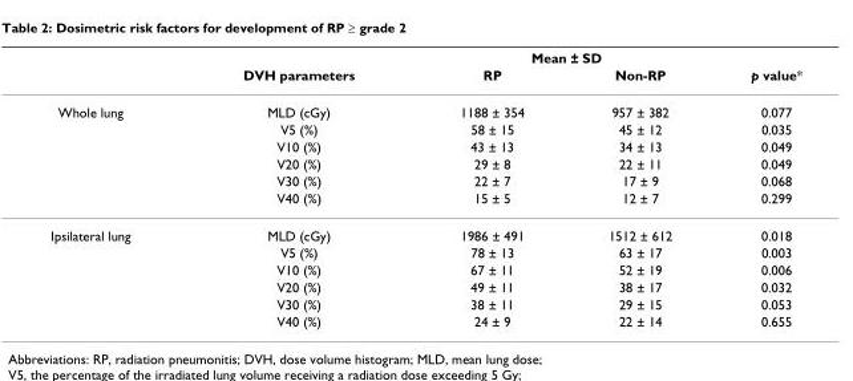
<table><thead><tr><td rowspan="2"></td><td rowspan="2">DVH parameters</td><td colspan="2">Mean ± SD</td><td rowspan="2">p value*</td></tr><tr><td>RP</td><td>Non-RP</td></tr></thead><tbody><tr><td rowspan="6">Whole lung</td><td>MLD (cGy)</td><td>1188 ± 354</td><td>957 ± 382</td><td>0.077</td></tr><tr><td>V5 (%)</td><td>58 ± 15</td><td>45 ± 12</td><td>0.035</td></tr><tr><td>V10 (%)</td><td>43 ± 13</td><td>34 ± 13</td><td>0.049</td></tr><tr><td>V20 (%)</td><td>29 ± 8</td><td>22 ± 11</td><td>0.049</td></tr><tr><td>V30 (%)</td><td>22 ± 7</td><td>17 ± 9</td><td>0.068</td></tr><tr><td>V40 (%)</td><td>15 ± 5</td><td>12 ± 7</td><td>0.299</td></tr><tr><td rowspan="6">Ipsilateral lung</td><td>MLD (cGy)</td><td>1986 ± 491</td><td>1512 ± 612</td><td>0.018</td></tr><tr><td>V5 (%)</td><td>78 ± 13</td><td>63 ± 17</td><td>0.003</td></tr><tr><td>V10 (%)</td><td>67 ± 11</td><td>52 ± 19</td><td>0.006</td></tr><tr><td>V20 (%)</td><td>49 ± 11</td><td>38 ± 17</td><td>0.032</td></tr><tr><td>V30 (%)</td><td>38 ± 11</td><td>29 ± 15</td><td>0.053</td></tr><tr><td>V40 (%)</td><td>24 ± 9</td><td>22 ± 14</td><td>0.655</td></tr></tbody></table>